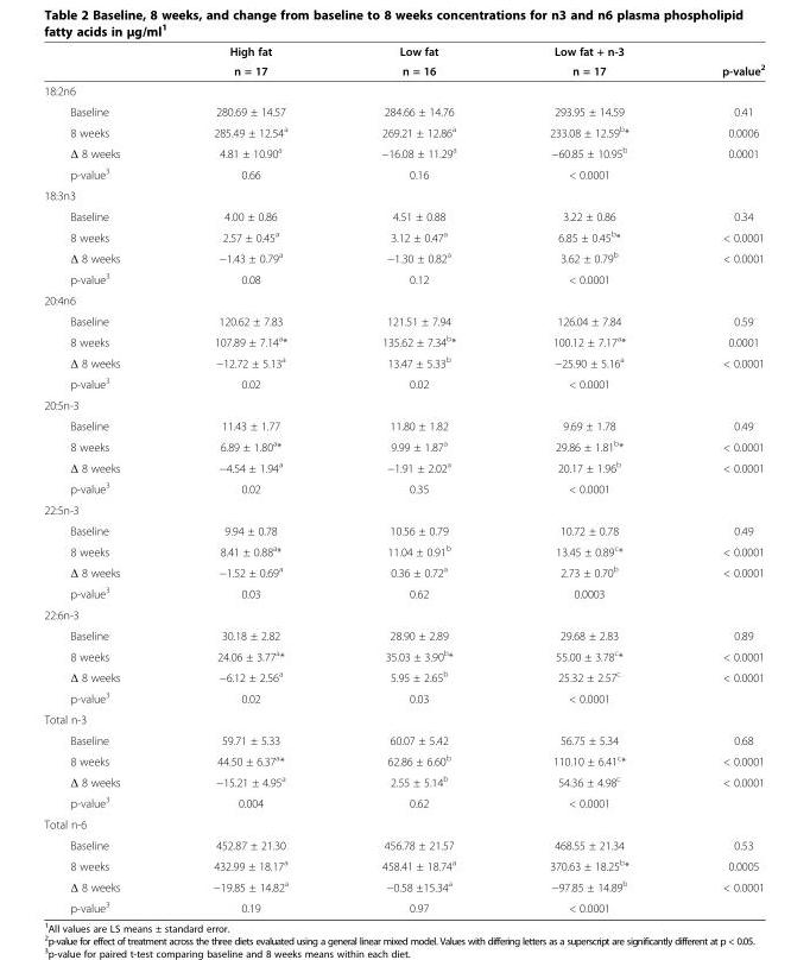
<table><thead><tr><td rowspan="2"></td><td rowspan="2">High fat n = 17</td><td rowspan="2">Low fat n = 16</td><td rowspan="2">Low fat + n-3 n = 17</td><td rowspan="2">p-value<sup>2</sup></td></tr><tr></tr></thead><tbody><tr><td colspan="5">18:2n6</td></tr><tr><td>Baseline</td><td>280.69 ± 14.57</td><td>284.66 ± 14.76</td><td>293.95 ± 14.59</td><td>0.41</td></tr><tr><td>8 weeks</td><td>285.49 ± 12.54<sup>a</sup></td><td>269.21 ± 12.86<sup>a</sup></td><td>233.08 ± 12.59<sup>b</sup>*</td><td>0.0006</td></tr><tr><td>Δ 8 weeks</td><td>4.81 ± 10.90<sup>a</sup></td><td>−16.08 ± 11.29<sup>a</sup></td><td>−60.85 ± 10.95<sup>b</sup></td><td>0.0001</td></tr><tr><td>p-value<sup>3</sup></td><td>0.66</td><td>0.16</td><td>&lt; 0.0001</td><td></td></tr><tr><td colspan="5">18:3n3</td></tr><tr><td>Baseline</td><td>4.00 ± 0.86</td><td>4.51 ± 0.88</td><td>3.22 ± 0.86</td><td>0.34</td></tr><tr><td>8 weeks</td><td>2.57 ± 0.45<sup>a</sup></td><td>3.12 ± 0.47<sup>a</sup></td><td>6.85 ± 0.45<sup>b</sup>*</td><td>&lt; 0.0001</td></tr><tr><td>Δ 8 weeks</td><td>−1.43 ± 0.79<sup>a</sup></td><td>−1.30 ± 0.82<sup>a</sup></td><td>3.62 ± 0.79<sup>b</sup></td><td>&lt; 0.0001</td></tr><tr><td>p-value<sup>3</sup></td><td>0.08</td><td>0.12</td><td>&lt; 0.0001</td><td></td></tr><tr><td colspan="5">20:4n6</td></tr><tr><td>Baseline</td><td>120.62 ± 7.83</td><td>121.51 ± 7.94</td><td>126.04 ± 7.84</td><td>0.59</td></tr><tr><td>8 weeks</td><td>107.89 ± 7.14<sup>a</sup>*</td><td>135.62 ± 7.34<sup>b</sup>*</td><td>100.12 ± 7.17<sup>a</sup>*</td><td>0.0001</td></tr><tr><td>Δ 8 weeks</td><td>−12.72 ± 5.13<sup>a</sup></td><td>13.47 ± 5.33<sup>b</sup></td><td>−25.90 ± 5.16<sup>a</sup></td><td>&lt; 0.0001</td></tr><tr><td>p-value<sup>3</sup></td><td>0.02</td><td>0.02</td><td>&lt; 0.0001</td><td></td></tr><tr><td colspan="5">20:5n-3</td></tr><tr><td>Baseline</td><td>11.43 ± 1.77</td><td>11.80 ± 1.82</td><td>9.69 ± 1.78</td><td>0.49</td></tr><tr><td>8 weeks</td><td>6.89 ± 1.80<sup>a</sup>*</td><td>9.99 ± 1.87<sup>a</sup></td><td>29.86 ± 1.81<sup>b</sup>*</td><td>&lt; 0.0001</td></tr><tr><td>Δ 8 weeks</td><td>−4.54 ± 1.94<sup>a</sup></td><td>−1.91 ± 2.02<sup>a</sup></td><td>20.17 ± 1.96<sup>b</sup></td><td>&lt; 0.0001</td></tr><tr><td>p-value<sup>3</sup></td><td>0.02</td><td>0.35</td><td>&lt; 0.0001</td><td></td></tr><tr><td colspan="5">22:5n-3</td></tr><tr><td>Baseline</td><td>9.94 ± 0.78</td><td>10.56 ± 0.79</td><td>10.72 ± 0.78</td><td>0.49</td></tr><tr><td>8 weeks</td><td>8.41 ± 0.88<sup>a</sup>*</td><td>11.04 ± 0.91<sup>b</sup></td><td>13.45 ± 0.89<sup>c</sup>*</td><td>&lt; 0.0001</td></tr><tr><td>Δ 8 weeks</td><td>−1.52 ± 0.69<sup>a</sup></td><td>0.36 ± 0.72<sup>a</sup></td><td>2.73 ± 0.70<sup>b</sup></td><td>&lt; 0.0001</td></tr><tr><td>p-value<sup>3</sup></td><td>0.03</td><td>0.62</td><td>0.0003</td><td></td></tr><tr><td colspan="5">22:6n-3</td></tr><tr><td>Baseline</td><td>30.18 ± 2.82</td><td>28.90 ± 2.89</td><td>29.68 ± 2.83</td><td>0.89</td></tr><tr><td>8 weeks</td><td>24.06 ± 3.77<sup>a</sup>*</td><td>35.03 ± 3.90<sup>b</sup>*</td><td>55.00 ± 3.78<sup>c</sup>*</td><td>&lt; 0.0001</td></tr><tr><td>Δ 8 weeks</td><td>−6.12 ± 2.56<sup>a</sup></td><td>5.95 ± 2.65<sup>b</sup></td><td>25.32 ± 2.57<sup>c</sup></td><td>&lt; 0.0001</td></tr><tr><td>p-value<sup>3</sup></td><td>0.02</td><td>0.03</td><td>&lt; 0.0001</td><td></td></tr><tr><td colspan="5">Total n-3</td></tr><tr><td>Baseline</td><td>59.71 ± 5.33</td><td>60.07 ± 5.42</td><td>56.75 ± 5.34</td><td>0.68</td></tr><tr><td>8 weeks</td><td>44.50 ± 6.37<sup>a</sup>*</td><td>62.86 ± 6.60<sup>b</sup></td><td>110.10 ± 6.41<sup>c</sup>*</td><td>&lt; 0.0001</td></tr><tr><td>Δ 8 weeks</td><td>−15.21 ± 4.95<sup>a</sup></td><td>2.55 ± 5.14<sup>b</sup></td><td>54.36 ± 4.98<sup>c</sup></td><td>&lt; 0.0001</td></tr><tr><td>p-value<sup>3</sup></td><td>0.004</td><td>0.62</td><td>&lt; 0.0001</td><td></td></tr><tr><td colspan="5">Total n-6</td></tr><tr><td>Baseline</td><td>452.87 ± 21.30</td><td>456.78 ± 21.57</td><td>468.55 ± 21.34</td><td>0.53</td></tr><tr><td>8 weeks</td><td>432.99 ± 18.17<sup>a</sup></td><td>458.41 ± 18.74<sup>a</sup></td><td>370.63 ± 18.25<sup>b</sup>*</td><td>0.0005</td></tr><tr><td>Δ 8 weeks</td><td>−19.85 ± 14.82<sup>a</sup></td><td>−0.58 ±15.34<sup>a</sup></td><td>−97.85 ± 14.89<sup>b</sup></td><td>&lt; 0.0001</td></tr><tr><td>p-value<sup>3</sup></td><td>0.19</td><td>0.97</td><td>&lt; 0.0001</td><td></td></tr></tbody></table>